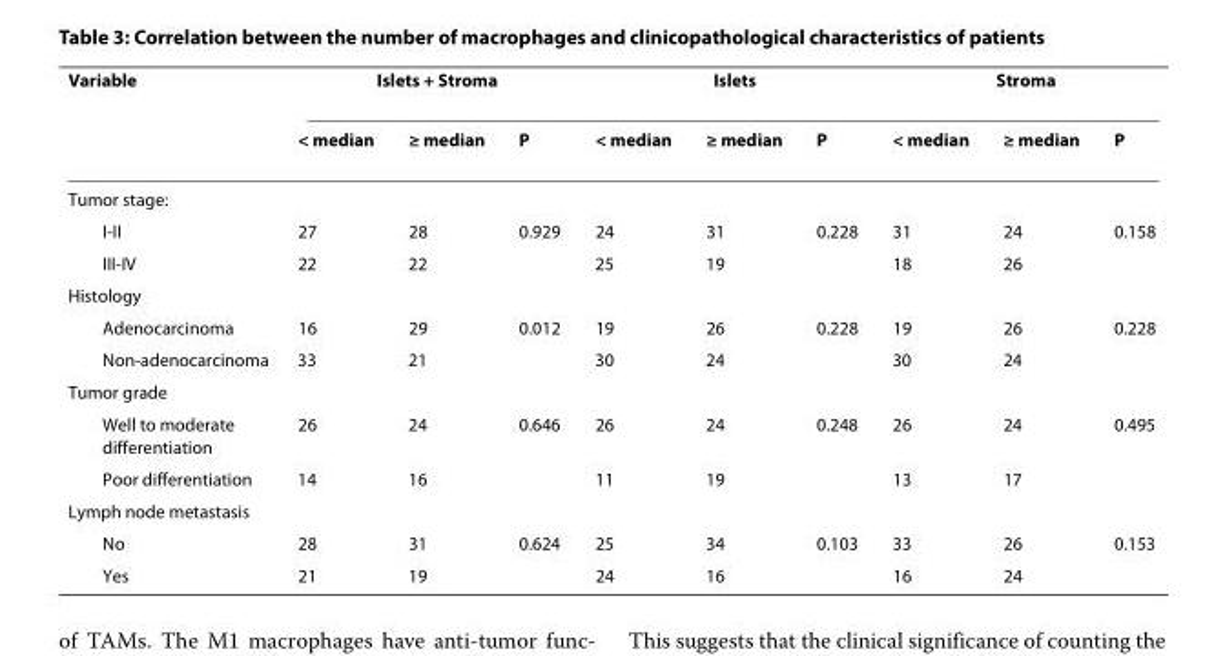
<table><thead><tr><td rowspan="2">Variable</td><td colspan="3">Islets + Stroma</td><td colspan="3">Islets</td><td colspan="3">Stroma</td></tr><tr><td>&lt; median</td><td>≥ median</td><td>P</td><td>&lt; median</td><td>≥ median</td><td>P</td><td>&lt; median</td><td>≥ median</td><td>P</td></tr></thead><tbody><tr><td colspan="10">Tumor stage:</td></tr><tr><td>I-II</td><td>27</td><td>28</td><td>0.929</td><td>24</td><td>31</td><td>0.228</td><td>31</td><td>24</td><td>0.158</td></tr><tr><td>III-IV</td><td>22</td><td>22</td><td></td><td>25</td><td>19</td><td></td><td>18</td><td>26</td><td></td></tr><tr><td colspan="10">Histology</td></tr><tr><td>Adenocarcinoma</td><td>16</td><td>29</td><td>0.012</td><td>19</td><td>26</td><td>0.228</td><td>19</td><td>26</td><td>0.228</td></tr><tr><td>Non-adenocarcinoma</td><td>33</td><td>21</td><td></td><td>30</td><td>24</td><td></td><td>30</td><td>24</td><td></td></tr><tr><td colspan="10">Tumor grade</td></tr><tr><td>Well to moderate differentiation</td><td>26</td><td>24</td><td>0.646</td><td>26</td><td>24</td><td>0.248</td><td>26</td><td>24</td><td>0.495</td></tr><tr><td>Poor differentiation</td><td>14</td><td>16</td><td></td><td>11</td><td>19</td><td></td><td>13</td><td>17</td><td></td></tr><tr><td colspan="10">Lymph node metastasis</td></tr><tr><td>No</td><td>28</td><td>31</td><td>0.624</td><td>25</td><td>34</td><td>0.103</td><td>33</td><td>26</td><td>0.153</td></tr><tr><td>Yes</td><td>21</td><td>19</td><td></td><td>24</td><td>16</td><td></td><td>16</td><td>24</td><td></td></tr></tbody></table>